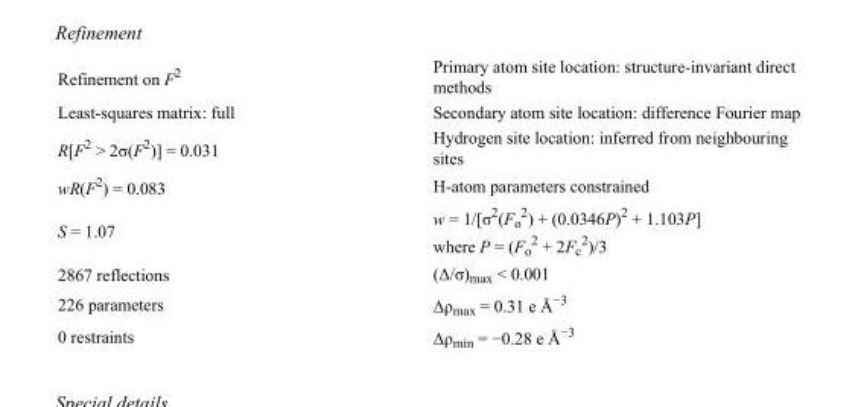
<table><tbody><tr><td>Refinement on F<sup>2</sup></td><td>Primary atom site location: structure-invariant direct methods</td></tr><tr><td>Least-squares matrix: full</td><td>Secondary atom site location: difference Fourier map</td></tr><tr><td>R[F<sup>2</sup> &gt; 2σ(F<sup>2</sup>)] = 0.031</td><td>Hydrogen site location: inferred from neighbouring sites</td></tr><tr><td>wR(F<sup>2</sup>) = 0.083</td><td>H-atom parameters constrained</td></tr><tr><td>S = 1.07</td><td>w = 1/[σ<sup>2</sup>(F<sub>o</sub> <sup>2</sup>) + (0.0346P)<sup>2</sup> + 1.103P] where P = (F<sub>o</sub> <sup>2</sup> + 2F<sub>c</sub> <sup>2</sup>)/3</td></tr><tr><td>2867 reflections</td><td>(Δ/σ)<sub>max</sub> &lt; 0.001</td></tr><tr><td>226 parameters</td><td>Δρ<sub>max</sub> = 0.31 e Å<sup>−3</sup></td></tr><tr><td>0 restraints</td><td>Δρ<sub>min</sub> = −0.28 e Å<sup>−3</sup></td></tr></tbody></table>